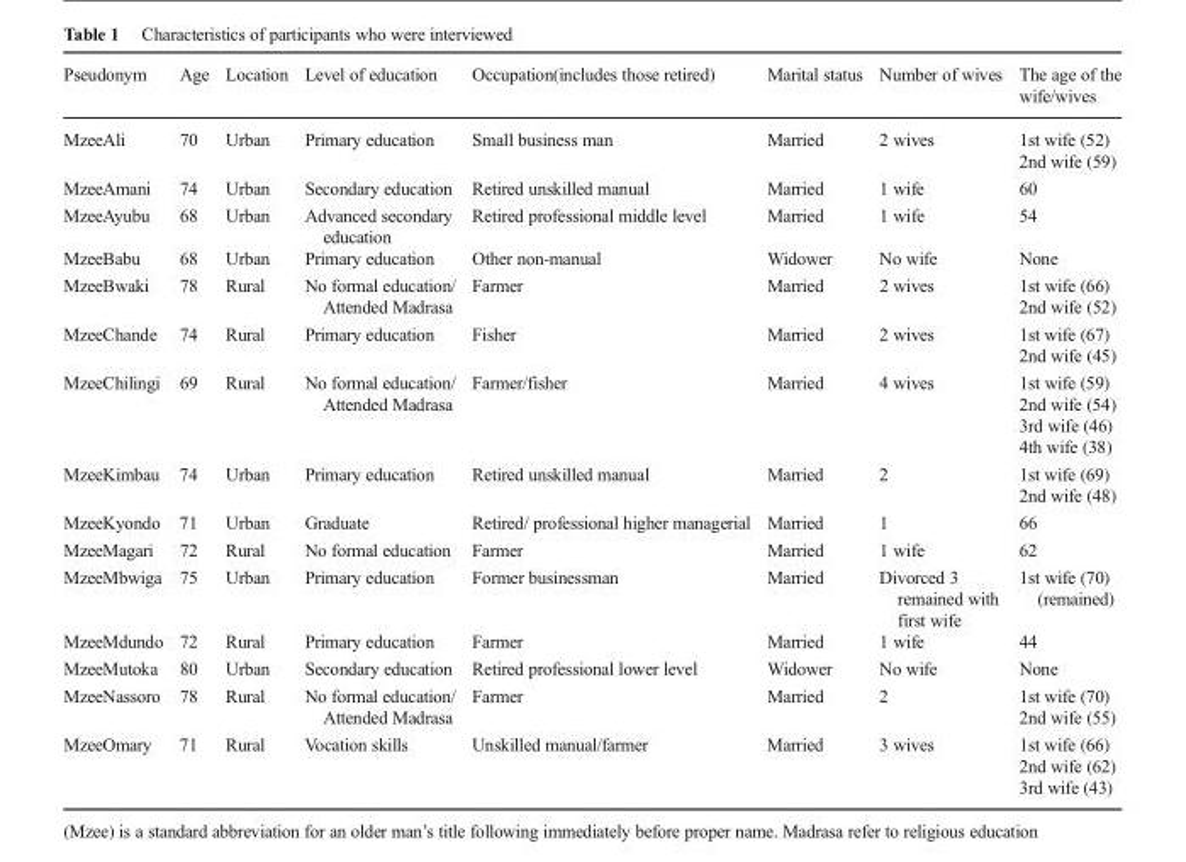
<table><thead><tr><td>Pseudonym</td><td>Age</td><td>Location</td><td>Level of education</td><td>Occupation(includes those retired)</td><td>Marital status</td><td>Number of wives</td><td>The age of the wife/wives</td></tr></thead><tbody><tr><td>MzeeAli</td><td>70</td><td>Urban</td><td>Primary education</td><td>Small business man</td><td>Married</td><td>2 wives</td><td>1st wife (52) 2nd wife (59)</td></tr><tr><td>MzeeAmani</td><td>74</td><td>Urban</td><td>Secondary education</td><td>Retired unskilled manual</td><td>Married</td><td>1 wife</td><td>60</td></tr><tr><td>MzeeAyubu</td><td>68</td><td>Urban</td><td>Advanced secondary education</td><td>Retired professional middle level</td><td>Married</td><td>1 wife</td><td>54</td></tr><tr><td>MzeeBabu</td><td>68</td><td>Urban</td><td>Primary education</td><td>Other non-manual</td><td>Widower</td><td>No wife</td><td>None</td></tr><tr><td>MzeeBwaki</td><td>78</td><td>Rural</td><td>No formal education/ Attended Madrasa</td><td>Farmer</td><td>Married</td><td>2 wives</td><td>1st wife (66) 2nd wife (52)</td></tr><tr><td>MzeeChande</td><td>74</td><td>Rural</td><td>Primary education</td><td>Fisher</td><td>Married</td><td>2 wives</td><td>1st wife (67) 2nd wife (45)</td></tr><tr><td>MzeeChilingi</td><td>69</td><td>Rural</td><td>No formal education/ Attended Madrasa</td><td>Farmer/fisher</td><td>Married</td><td>4 wives</td><td>1st wife (59) 2nd wife (54) 3rd wife (46) 4th wife (38)</td></tr><tr><td>MzeeKimbau</td><td>74</td><td>Urban</td><td>Primary education</td><td>Retired unskilled manual</td><td>Married</td><td>2</td><td>1st wife (69) 2nd wife (48)</td></tr><tr><td>MzeeKyondo</td><td>71</td><td>Urban</td><td>Graduate</td><td>Retired/ professional higher managerial</td><td>Married</td><td>1</td><td>66</td></tr><tr><td>MzeeMagari</td><td>72</td><td>Rural</td><td>No formal education</td><td>Farmer</td><td>Married</td><td>1 wife</td><td>62</td></tr><tr><td>MzeeMbwiga</td><td>75</td><td>Urban</td><td>Primary education</td><td>Former businessman</td><td>Married</td><td>Divorced 3 remained with first wife</td><td>1st wife (70) (remained)</td></tr><tr><td>MzeeMdundo</td><td>72</td><td>Rural</td><td>Primary education</td><td>Farmer</td><td>Married</td><td>1 wife</td><td>44</td></tr><tr><td>MzeeMutoka</td><td>80</td><td>Urban</td><td>Secondary education</td><td>Retired professional lower level</td><td>Widower</td><td>No wife</td><td>None</td></tr><tr><td>MzeeNassoro</td><td>78</td><td>Rural</td><td>No formal education/ Attended Madrasa</td><td>Farmer</td><td>Married</td><td>2</td><td>1st wife (70) 2nd wife (55)</td></tr><tr><td>MzeeOmary</td><td>71</td><td>Rural</td><td>Vocation skills</td><td>Unskilled manual/farmer</td><td>Married</td><td>3 wives</td><td>1st wife (66) 2nd wife (62) 3rd wife (43)</td></tr></tbody></table>